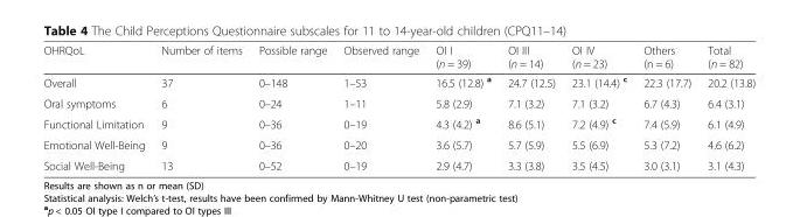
<table><thead><tr><td>OHRQoL</td><td>Number of items</td><td>Possible range</td><td>Observed range</td><td>OI I (n = 39)</td><td>OI III (n = 14)</td><td>OI IV (n = 23)</td><td>Others (n = 6)</td><td>Total (n = 82)</td></tr></thead><tbody><tr><td>Overall</td><td>37</td><td>0–148</td><td>1–53</td><td>16.5 (12.8) <sup>a</sup></td><td>24.7 (12.5)</td><td>23.1 (14.4) <sup>c</sup></td><td>22.3 (17.7)</td><td>20.2 (13.8)</td></tr><tr><td>Oral symptoms</td><td>6</td><td>0–24</td><td>1–11</td><td>5.8 (2.9)</td><td>7.1 (3.2)</td><td>7.1 (3.2)</td><td>6.7 (4.3)</td><td>6.4 (3.1)</td></tr><tr><td>Functional Limitation</td><td>9</td><td>0–36</td><td>0–19</td><td>4.3 (4.2) <sup>a</sup></td><td>8.6 (5.1)</td><td>7.2 (4.9) <sup>c</sup></td><td>7.4 (5.9)</td><td>6.1 (4.9)</td></tr><tr><td>Emotional Well-Being</td><td>9</td><td>0–36</td><td>0–20</td><td>3.6 (5.7)</td><td>5.7 (5.9)</td><td>5.5 (6.9)</td><td>5.3 (7.2)</td><td>4.6 (6.2)</td></tr><tr><td>Social Well-Being</td><td>13</td><td>0–52</td><td>0–19</td><td>2.9 (4.7)</td><td>3.3 (3.8)</td><td>3.5 (4.5)</td><td>3.0 (3.1)</td><td>3.1 (4.3)</td></tr></tbody></table>